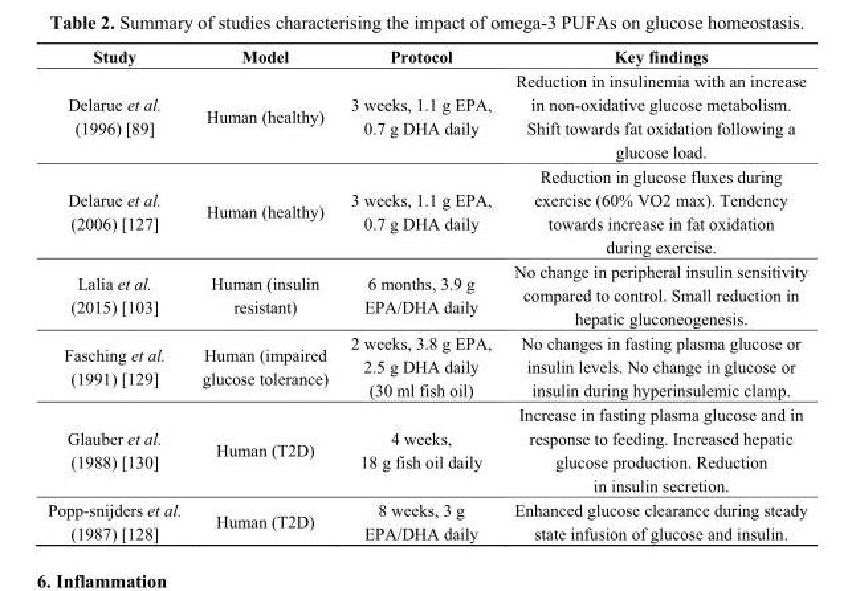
<table><thead><tr><td>Study</td><td>Model</td><td>Protocol</td><td>Key findings</td></tr></thead><tbody><tr><td>Delarue et al. (1996) [89]</td><td>Human (healthy)</td><td>3 weeks, 1.1 g EPA, 0.7 g DHA daily</td><td>Reduction in insulinemia with an increase in non-oxidative glucose metabolism. Shift towards fat oxidation following a glucose load.</td></tr><tr><td>Delarue et al. (2006) [127]</td><td>Human (healthy)</td><td>3 weeks, 1.1 g EPA, 0.7 g DHA daily</td><td>Reduction in glucose fluxes during exercise (60% VO2 max). Tendency towards increase in fat oxidation during exercise.</td></tr><tr><td>Lalia et al. (2015) [103]</td><td>Human (insulin resistant)</td><td>6 months, 3.9 g EPA/DHA daily</td><td>No change in peripheral insulin sensitivity compared to control. Small reduction in hepatic gluconeogenesis.</td></tr><tr><td>Fasching et al. (1991) [129]</td><td>Human (impaired glucose tolerance)</td><td>2 weeks, 3.8 g EPA, 2.5 g DHA daily (30 ml fish oil)</td><td>No changes in fasting plasma glucose or insulin levels. No change in glucose or insulin during hyperinsulemic clamp.</td></tr><tr><td>Glauber et al. (1988) [130]</td><td>Human (T2D)</td><td>4 weeks, 18 g fish oil daily</td><td>Increase in fasting plasma glucose and in response to feeding. Increased hepatic glucose production. Reduction in insulin secretion.</td></tr><tr><td>Popp-snijders et al. (1987) [128]</td><td>Human (T2D)</td><td>8 weeks, 3 g EPA/DHA daily</td><td>Enhanced glucose clearance during steady state infusion of glucose and insulin.</td></tr></tbody></table>